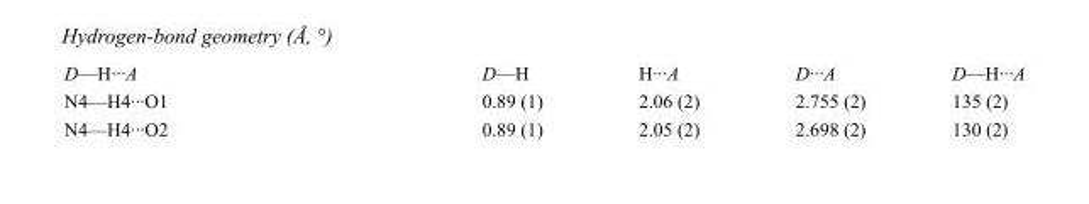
<table><tbody><tr><td>D—H···A</td><td>D—H</td><td>H···A</td><td>D···A</td><td>D—H···A</td></tr><tr><td>N4—H4···O1</td><td>0.89 (1)</td><td>2.06 (2)</td><td>2.755 (2)</td><td>135 (2)</td></tr><tr><td>N4—H4···O2</td><td>0.89 (1)</td><td>2.05 (2)</td><td>2.698 (2)</td><td>130 (2)</td></tr></tbody></table>